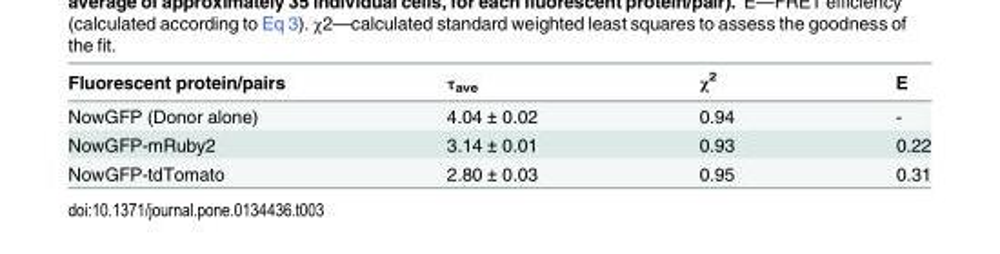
<table><thead><tr><td>Fluorescent protein/pairs</td><td>τ<sub>ave</sub></td><td>χ<sup>2</sup></td><td>E</td></tr></thead><tbody><tr><td>NowGFP (Donor alone)</td><td>4.04 ± 0.02</td><td>0.94</td><td>-</td></tr><tr><td>NowGFP-mRuby2</td><td>3.14 ± 0.01</td><td>0.93</td><td>0.22</td></tr><tr><td>NowGFP-tdTomato</td><td>2.80 ± 0.03</td><td>0.95</td><td>0.31</td></tr></tbody></table>